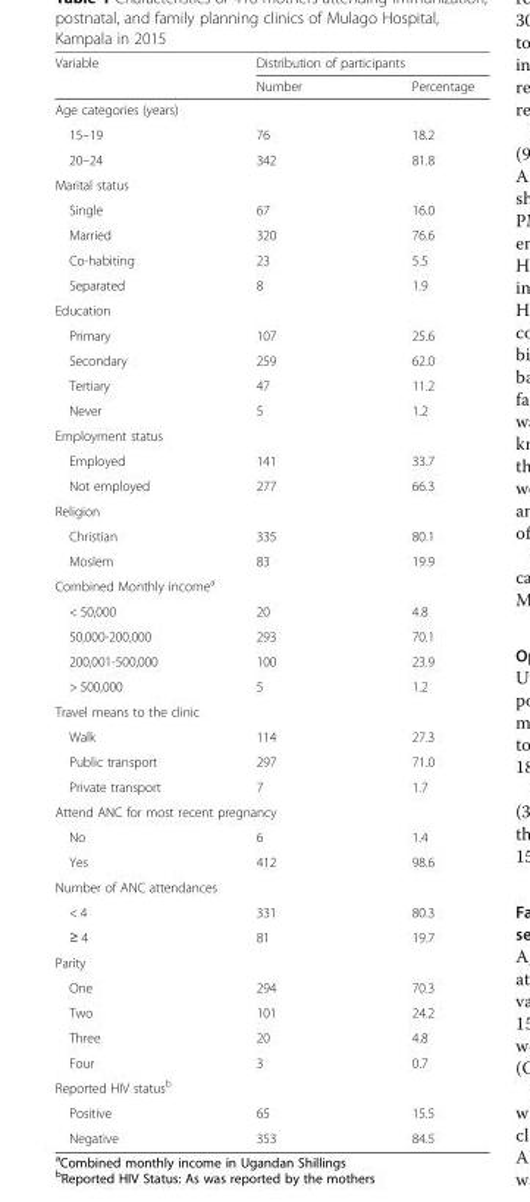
<table><thead><tr><td rowspan="2">Variable</td><td colspan="2">Distribution of participants</td></tr><tr><td>Number</td><td>Percentage</td></tr></thead><tbody><tr><td colspan="3">Age categories (years)</td></tr><tr><td>15–19</td><td>76</td><td>18.2</td></tr><tr><td>20–24</td><td>342</td><td>81.8</td></tr><tr><td colspan="3">Marital status</td></tr><tr><td>Single</td><td>67</td><td>16.0</td></tr><tr><td>Married</td><td>320</td><td>76.6</td></tr><tr><td>Co-habiting</td><td>23</td><td>5.5</td></tr><tr><td>Separated</td><td>8</td><td>1.9</td></tr><tr><td colspan="3">Education</td></tr><tr><td>Primary</td><td>107</td><td>25.6</td></tr><tr><td>Secondary</td><td>259</td><td>62.0</td></tr><tr><td>Tertiary</td><td>47</td><td>11.2</td></tr><tr><td>Never</td><td>5</td><td>1.2</td></tr><tr><td colspan="3">Employment status</td></tr><tr><td>Employed</td><td>141</td><td>33.7</td></tr><tr><td>Not employed</td><td>277</td><td>66.3</td></tr><tr><td colspan="3">Religion</td></tr><tr><td>Christian</td><td>335</td><td>80.1</td></tr><tr><td>Moslem</td><td>83</td><td>19.9</td></tr><tr><td colspan="3">Combined Monthly income<sup>a</sup></td></tr><tr><td>&lt; 50,000</td><td>20</td><td>4.8</td></tr><tr><td>50,000-200,000</td><td>293</td><td>70.1</td></tr><tr><td>200,001-500,000</td><td>100</td><td>23.9</td></tr><tr><td>&gt; 500,000</td><td>5</td><td>1.2</td></tr><tr><td colspan="3">Travel means to the clinic</td></tr><tr><td>Walk</td><td>114</td><td>27.3</td></tr><tr><td>Public transport</td><td>297</td><td>71.0</td></tr><tr><td>Private transport</td><td>7</td><td>1.7</td></tr><tr><td colspan="3">Attend ANC for most recent pregnancy</td></tr><tr><td>No</td><td>6</td><td>1.4</td></tr><tr><td>Yes</td><td>412</td><td>98.6</td></tr><tr><td colspan="3">Number of ANC attendances</td></tr><tr><td>&lt; 4</td><td>331</td><td>80.3</td></tr><tr><td>≥ 4</td><td>81</td><td>19.7</td></tr><tr><td colspan="3">Parity</td></tr><tr><td>One</td><td>294</td><td>70.3</td></tr><tr><td>Two</td><td>101</td><td>24.2</td></tr><tr><td>Three</td><td>20</td><td>4.8</td></tr><tr><td>Four</td><td>3</td><td>0.7</td></tr><tr><td colspan="3">Reported HIV status<sup>b</sup></td></tr><tr><td>Positive</td><td>65</td><td>15.5</td></tr><tr><td>Negative</td><td>353</td><td>84.5</td></tr></tbody></table>